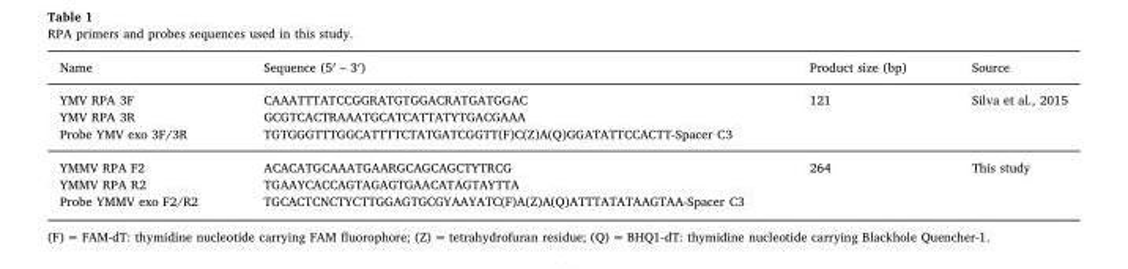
<table><thead><tr><td>Name</td><td>Sequence (5′ – 3′)</td><td>Product size (bp)</td><td>Source</td></tr></thead><tbody><tr><td>YMV RPA 3F</td><td>CAAATTTATCCGGRATGTGGACRATGATGGAC</td><td rowspan="3">121</td><td rowspan="3">Silva et al., 2015</td></tr><tr><td>YMV RPA 3R</td><td>GCGTCACTRAAATGCATCATTATYTGACGAAA</td></tr><tr><td>Probe YMV exo 3F/3R</td><td>TGTGGGTTTGGCATTTTCTATGATCGGTT(F)C(Z)A(Q)GGATATTCCACTT-Spacer C3</td></tr><tr><td>YMMV RPA F2</td><td>ACACATGCAAATGAARGCAGCAGCTYTRCG</td><td rowspan="3">264</td><td rowspan="3">This study</td></tr><tr><td>YMMV RPA R2</td><td>TGAAYCACCAGTAGAGTGAACATAGTAYTTA</td></tr><tr><td>Probe YMMV exo F2/R2</td><td>TGCACTCNCTYCTTGGAGTGCGYAAYATC(F)A(Z)A(Q)ATTTATATAAGTAA-Spacer C3</td></tr></tbody></table>